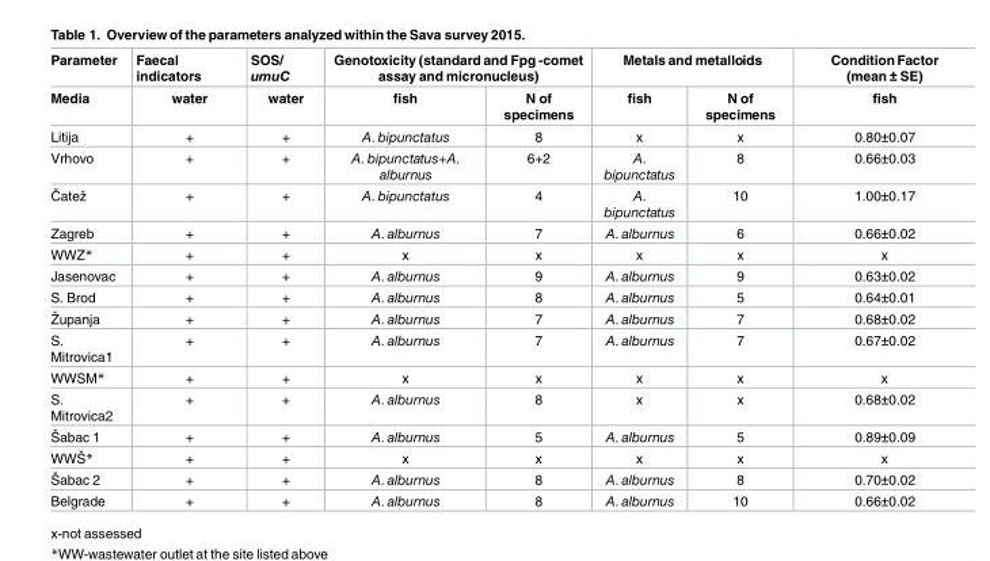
<table><thead><tr><td rowspan="2">Parameter Media</td><td rowspan="2">Faecal indicators water</td><td rowspan="2">SOS/ umuC water</td><td colspan="2">Genotoxicity (standard and Fpg -comet assay and micronucleus)</td><td colspan="2">Metals and metalloids</td><td rowspan="2">Condition Factor (mean ± SE) fish</td></tr><tr><td>fish</td><td>N of specimens</td><td>fish</td><td>N of specimens</td></tr></thead><tbody><tr><td>Litija</td><td>+</td><td>+</td><td>A. bipunctatus</td><td>8</td><td>x</td><td>x</td><td>0.80±0.07</td></tr><tr><td>Vrhovo</td><td>+</td><td>+</td><td>A. bipunctatus+A. alburnus</td><td>6+2</td><td>A. bipunctatus</td><td>8</td><td>0.66±0.03</td></tr><tr><td>Čatež</td><td>+</td><td>+</td><td>A. bipunctatus</td><td>4</td><td>A. bipunctatus</td><td>10</td><td>1.00±0.17</td></tr><tr><td>Zagreb</td><td>+</td><td>+</td><td>A. alburnus</td><td>7</td><td>A. alburnus</td><td>6</td><td>0.66±0.02</td></tr><tr><td>WWZ*</td><td>+</td><td>+</td><td>x</td><td>x</td><td>x</td><td>x</td><td>x</td></tr><tr><td>Jasenovac</td><td>+</td><td>+</td><td>A. alburnus</td><td>9</td><td>A. alburnus</td><td>9</td><td>0.63±0.02</td></tr><tr><td>S. Brod</td><td>+</td><td>+</td><td>A. alburnus</td><td>8</td><td>A. alburnus</td><td>5</td><td>0.64±0.01</td></tr><tr><td>Županja</td><td>+</td><td>+</td><td>A. alburnus</td><td>7</td><td>A. alburnus</td><td>7</td><td>0.68±0.02</td></tr><tr><td>S. Mitrovica1</td><td>+</td><td>+</td><td>A. alburnus</td><td>7</td><td>A. alburnus</td><td>7</td><td>0.67±0.02</td></tr><tr><td>WWSM*</td><td>+</td><td>+</td><td>x</td><td>x</td><td>x</td><td>x</td><td>x</td></tr><tr><td>S. Mitrovica2</td><td>+</td><td>+</td><td>A. alburnus</td><td>8</td><td>x</td><td>x</td><td>0.68±0.02</td></tr><tr><td>Šabac 1</td><td>+</td><td>+</td><td>A. alburnus</td><td>5</td><td>A. alburnus</td><td>5</td><td>0.89±0.09</td></tr><tr><td>WWŠ*</td><td>+</td><td>+</td><td>x</td><td>x</td><td>x</td><td>x</td><td>x</td></tr><tr><td>Šabac 2</td><td>+</td><td>+</td><td>A. alburnus</td><td>8</td><td>A. alburnus</td><td>8</td><td>0.70±0.02</td></tr><tr><td>Belgrade</td><td>+</td><td>+</td><td>A. alburnus</td><td>8</td><td>A. alburnus</td><td>10</td><td>0.66±0.02</td></tr></tbody></table>